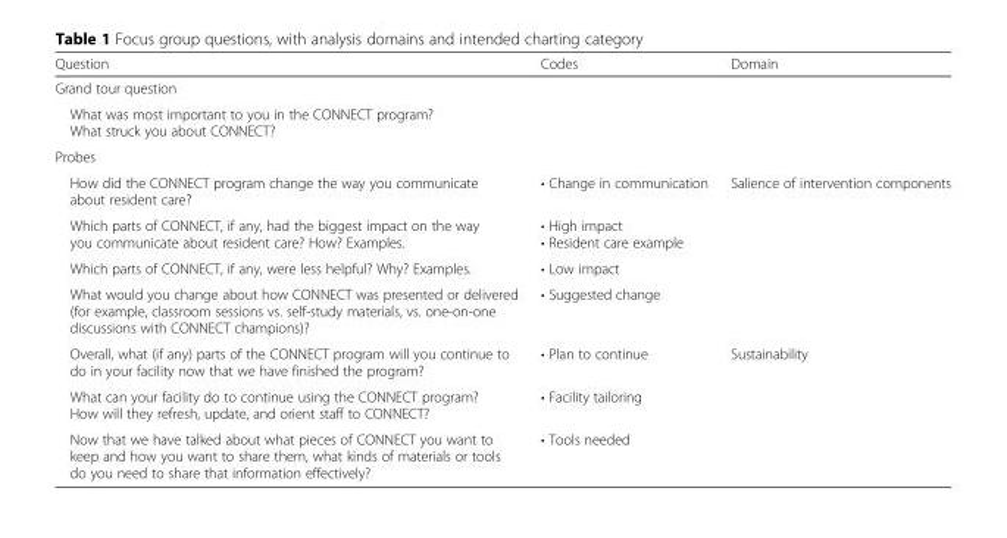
<table><thead><tr><td>Question</td><td>Codes</td><td>Domain</td></tr></thead><tbody><tr><td colspan="3">Grand tour question</td></tr><tr><td colspan="3">What was most important to you in the CONNECT program? What struck you about CONNECT?</td></tr><tr><td colspan="3">Probes</td></tr><tr><td>How did the CONNECT program change the way you communicate about resident care?</td><td>• Change in communication</td><td rowspan="4">Salience of intervention components</td></tr><tr><td>Which parts of CONNECT, if any, had the biggest impact on the way you communicate about resident care? How? Examples.</td><td>• High impact • Resident care example</td></tr><tr><td>Which parts of CONNECT, if any, were less helpful? Why? Examples.</td><td>• Low impact</td></tr><tr><td>What would you change about how CONNECT was presented or delivered (for example, classroom sessions vs. self-study materials, vs. one-on-one discussions with CONNECT champions)?</td><td>• Suggested change</td></tr><tr><td>Overall, what (if any) parts of the CONNECT program will you continue to do in your facility now that we have finished the program?</td><td>• Plan to continue</td><td rowspan="3">Sustainability</td></tr><tr><td>What can your facility do to continue using the CONNECT program? How will they refresh, update, and orient staff to CONNECT?</td><td>• Facility tailoring</td></tr><tr><td>Now that we have talked about what pieces of CONNECT you want to keep and how you want to share them, what kinds of materials or tools do you need to share that information effectively?</td><td>• Tools needed</td></tr></tbody></table>